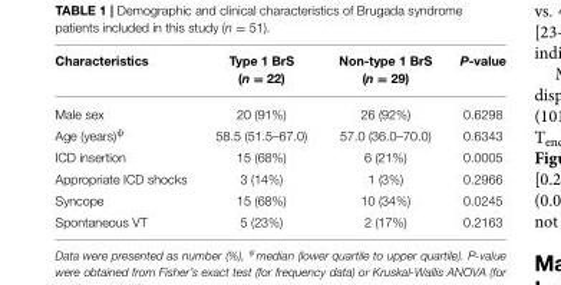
<table><thead><tr><td>Characteristics</td><td>Type 1 BrS (n = 22)</td><td>Non-type 1 BrS (n = 29)</td><td>P-value</td></tr></thead><tbody><tr><td>Male sex</td><td>20 (91%)</td><td>26 (92%)</td><td>0.6298</td></tr><tr><td>Age (years)<sup>ψ</sup></td><td>58.5 (51.5–67.0)</td><td>57.0 (36.0–70.0)</td><td>0.6343</td></tr><tr><td>ICD insertion</td><td>15 (68%)</td><td>6 (21%)</td><td>0.0005</td></tr><tr><td>Appropriate ICD shocks</td><td>3 (14%)</td><td>1 (3%)</td><td>0.2966</td></tr><tr><td>Syncope</td><td>15 (68%)</td><td>10 (34%)</td><td>0.0245</td></tr><tr><td>Spontaneous VT</td><td>5 (23%)</td><td>2 (17%)</td><td>0.2163</td></tr></tbody></table>